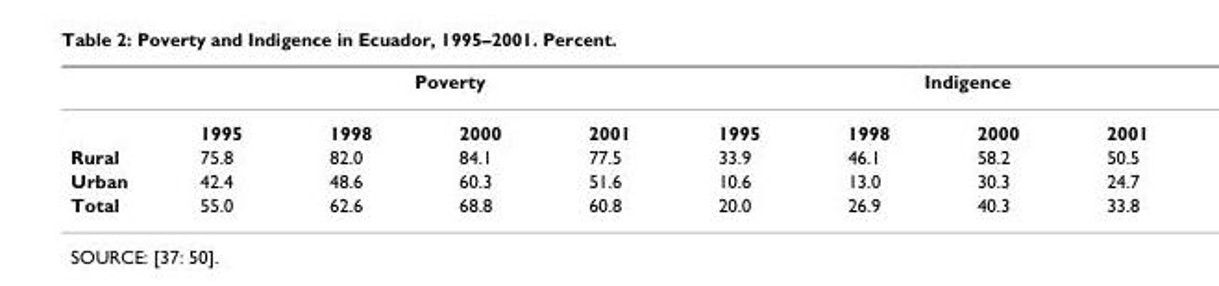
<table><thead><tr><td rowspan="2"></td><td colspan="4">Poverty</td><td colspan="4">Indigence</td></tr><tr><td>1995</td><td>1998</td><td>2000</td><td>2001</td><td>1995</td><td>1998</td><td>2000</td><td>2001</td></tr></thead><tbody><tr><td>Rural</td><td>75.8</td><td>82.0</td><td>84.1</td><td>77.5</td><td>33.9</td><td>46.1</td><td>58.2</td><td>50.5</td></tr><tr><td>Urban</td><td>42.4</td><td>48.6</td><td>60.3</td><td>51.6</td><td>10.6</td><td>13.0</td><td>30.3</td><td>24.7</td></tr><tr><td>Total</td><td>55.0</td><td>62.6</td><td>68.8</td><td>60.8</td><td>20.0</td><td>26.9</td><td>40.3</td><td>33.8</td></tr></tbody></table>